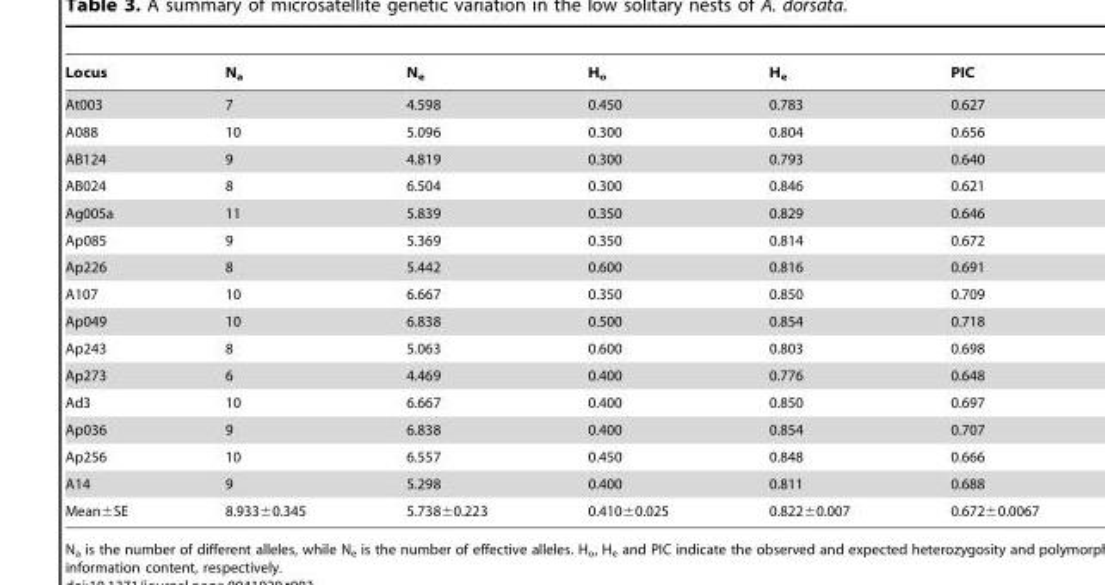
<table><thead><tr><td>Locus</td><td>N<sub>a</sub></td><td>N<sub>e</sub></td><td>H<sub>o</sub></td><td>H<sub>e</sub></td><td>PIC</td></tr></thead><tbody><tr><td>At003</td><td>7</td><td>4.598</td><td>0.450</td><td>0.783</td><td>0.627</td></tr><tr><td>A088</td><td>10</td><td>5.096</td><td>0.300</td><td>0.804</td><td>0.656</td></tr><tr><td>AB124</td><td>9</td><td>4.819</td><td>0.300</td><td>0.793</td><td>0.640</td></tr><tr><td>AB024</td><td>8</td><td>6.504</td><td>0.300</td><td>0.846</td><td>0.621</td></tr><tr><td>Ag005a</td><td>11</td><td>5.839</td><td>0.350</td><td>0.829</td><td>0.646</td></tr><tr><td>Ap085</td><td>9</td><td>5.369</td><td>0.350</td><td>0.814</td><td>0.672</td></tr><tr><td>Ap226</td><td>8</td><td>5.442</td><td>0.600</td><td>0.816</td><td>0.691</td></tr><tr><td>A107</td><td>10</td><td>6.667</td><td>0.350</td><td>0.850</td><td>0.709</td></tr><tr><td>Ap049</td><td>10</td><td>6.838</td><td>0.500</td><td>0.854</td><td>0.718</td></tr><tr><td>Ap243</td><td>8</td><td>5.063</td><td>0.600</td><td>0.803</td><td>0.698</td></tr><tr><td>Ap273</td><td>6</td><td>4.469</td><td>0.400</td><td>0.776</td><td>0.648</td></tr><tr><td>Ad3</td><td>10</td><td>6.667</td><td>0.400</td><td>0.850</td><td>0.697</td></tr><tr><td>Ap036</td><td>9</td><td>6.838</td><td>0.400</td><td>0.854</td><td>0.707</td></tr><tr><td>Ap256</td><td>10</td><td>6.557</td><td>0.450</td><td>0.848</td><td>0.666</td></tr><tr><td>A14</td><td>9</td><td>5.298</td><td>0.400</td><td>0.811</td><td>0.688</td></tr><tr><td>Mean±SE</td><td>8.933±0.345</td><td>5.738±0.223</td><td>0.410±0.025</td><td>0.822±0.007</td><td>0.672±0.0067</td></tr></tbody></table>